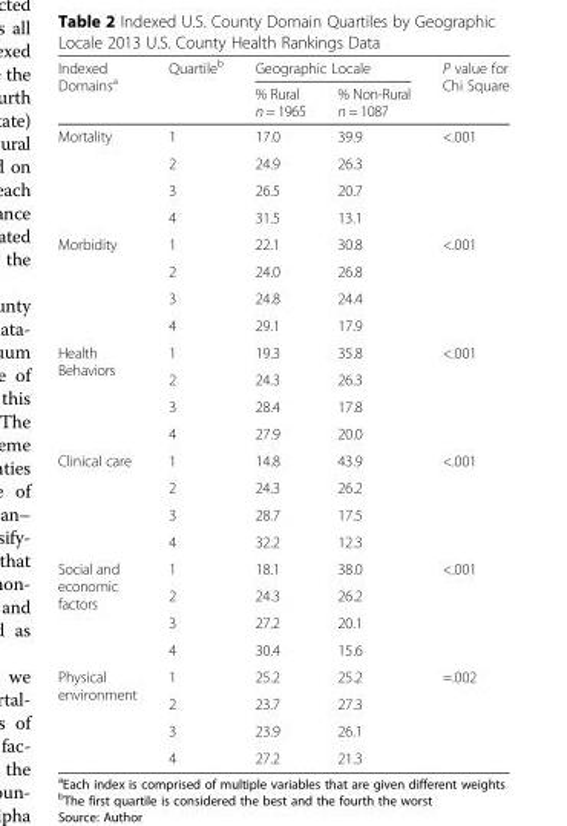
<table><thead><tr><td rowspan="2">Indexed Domains<sup>a</sup></td><td rowspan="2">Quartile<sup>b</sup></td><td colspan="2">Geographic Locale</td><td rowspan="2">P value for Chi Square</td></tr><tr><td>% Rural n = 1965</td><td>% Non-Rural n = 1087</td></tr></thead><tbody><tr><td rowspan="4">Mortality</td><td>1</td><td>17.0</td><td>39.9</td><td rowspan="4">&lt;.001</td></tr><tr><td>2</td><td>24.9</td><td>26.3</td></tr><tr><td>3</td><td>26.5</td><td>20.7</td></tr><tr><td>4</td><td>31.5</td><td>13.1</td></tr><tr><td rowspan="4">Morbidity</td><td>1</td><td>22.1</td><td>30.8</td><td rowspan="4">&lt;.001</td></tr><tr><td>2</td><td>24.0</td><td>26.8</td></tr><tr><td>3</td><td>24.8</td><td>24.4</td></tr><tr><td>4</td><td>29.1</td><td>17.9</td></tr><tr><td rowspan="4">Health Behaviors</td><td>1</td><td>19.3</td><td>35.8</td><td rowspan="4">&lt;.001</td></tr><tr><td>2</td><td>24.3</td><td>26.3</td></tr><tr><td>3</td><td>28.4</td><td>17.8</td></tr><tr><td>4</td><td>27.9</td><td>20.0</td></tr><tr><td rowspan="4">Clinical care</td><td>1</td><td>14.8</td><td>43.9</td><td rowspan="4">&lt;.001</td></tr><tr><td>2</td><td>24.3</td><td>26.2</td></tr><tr><td>3</td><td>28.7</td><td>17.5</td></tr><tr><td>4</td><td>32.2</td><td>12.3</td></tr><tr><td rowspan="4">Social and economic factors</td><td>1</td><td>18.1</td><td>38.0</td><td rowspan="4">&lt;.001</td></tr><tr><td>2</td><td>24.3</td><td>26.2</td></tr><tr><td>3</td><td>27.2</td><td>20.1</td></tr><tr><td>4</td><td>30.4</td><td>15.6</td></tr><tr><td rowspan="4">Physical environment</td><td>1</td><td>25.2</td><td>25.2</td><td rowspan="4">=.002</td></tr><tr><td>2</td><td>23.7</td><td>27.3</td></tr><tr><td>3</td><td>23.9</td><td>26.1</td></tr><tr><td>4</td><td>27.2</td><td>21.3</td></tr></tbody></table>